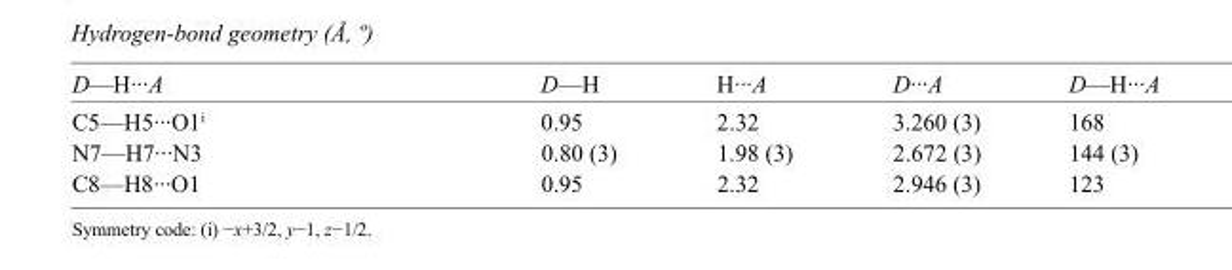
<table><tbody><tr><td>D—H···A</td><td>D—H</td><td>H···A</td><td>D···A</td><td>D—H···A</td></tr><tr><td>C5—H5···O1<sup>i</sup></td><td>0.95</td><td>2.32</td><td>3.260 (3)</td><td>168</td></tr><tr><td>N7—H7···N3</td><td>0.80 (3)</td><td>1.98 (3)</td><td>2.672 (3)</td><td>144 (3)</td></tr><tr><td>C8—H8···O1</td><td>0.95</td><td>2.32</td><td>2.946 (3)</td><td>123</td></tr></tbody></table>